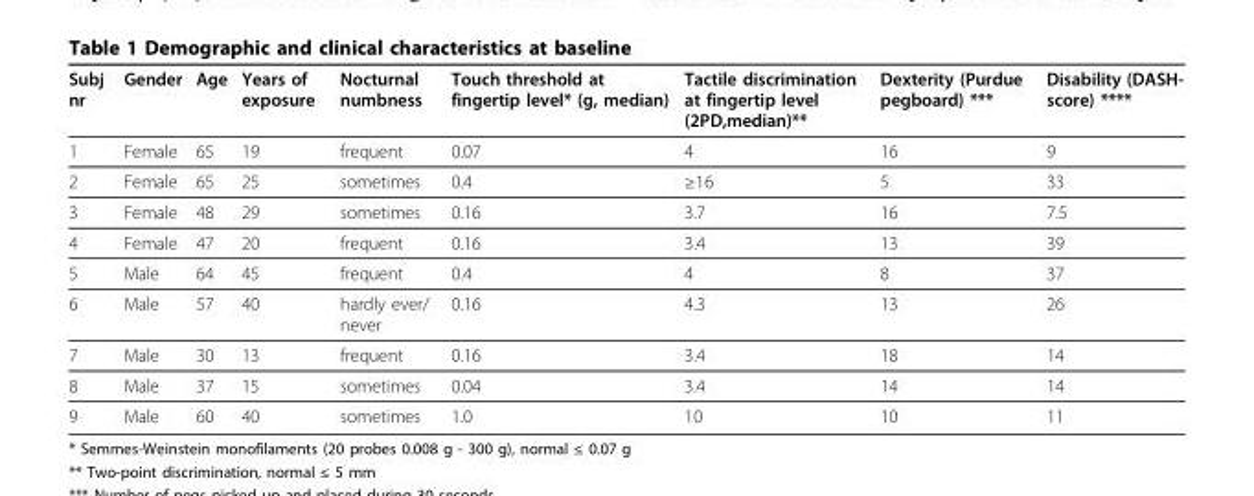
<table><thead><tr><td>Subj nr</td><td>Gender</td><td>Age</td><td>Years of exposure</td><td>Nocturnal numbness</td><td>Touch threshold at fingertip level* (g, median)</td><td>Tactile discrimination at fingertip level (2PD,median)**</td><td>Dexterity (Purdue pegboard) ***</td><td>Disability (DASH- score) ****</td></tr></thead><tbody><tr><td>1</td><td>Female</td><td>65</td><td>19</td><td>frequent</td><td>0.07</td><td>4</td><td>16</td><td>9</td></tr><tr><td>2</td><td>Female</td><td>65</td><td>25</td><td>sometimes</td><td>0.4</td><td>≥16</td><td>5</td><td>33</td></tr><tr><td>3</td><td>Female</td><td>48</td><td>29</td><td>sometimes</td><td>0.16</td><td>3.7</td><td>16</td><td>7.5</td></tr><tr><td>4</td><td>Female</td><td>47</td><td>20</td><td>frequent</td><td>0.16</td><td>3.4</td><td>13</td><td>39</td></tr><tr><td>5</td><td>Male</td><td>64</td><td>45</td><td>frequent</td><td>0.4</td><td>4</td><td>8</td><td>37</td></tr><tr><td>6</td><td>Male</td><td>57</td><td>40</td><td>hardly ever/ never</td><td>0.16</td><td>4.3</td><td>13</td><td>26</td></tr><tr><td>7</td><td>Male</td><td>30</td><td>13</td><td>frequent</td><td>0.16</td><td>3.4</td><td>18</td><td>14</td></tr><tr><td>8</td><td>Male</td><td>37</td><td>15</td><td>sometimes</td><td>0.04</td><td>3.4</td><td>14</td><td>14</td></tr><tr><td>9</td><td>Male</td><td>60</td><td>40</td><td>sometimes</td><td>1.0</td><td>10</td><td>10</td><td>11</td></tr></tbody></table>